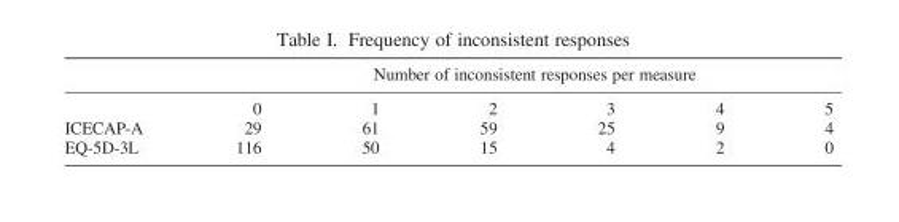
<table><thead><tr><td rowspan="2"></td><td colspan="6">Number of inconsistent responses per measure</td></tr><tr><td>0</td><td>1</td><td>2</td><td>3</td><td>4</td><td>5</td></tr></thead><tbody><tr><td>ICECAP-A</td><td>29</td><td>61</td><td>59</td><td>25</td><td>9</td><td>4</td></tr><tr><td>EQ-5D-3L</td><td>116</td><td>50</td><td>15</td><td>4</td><td>2</td><td>0</td></tr></tbody></table>